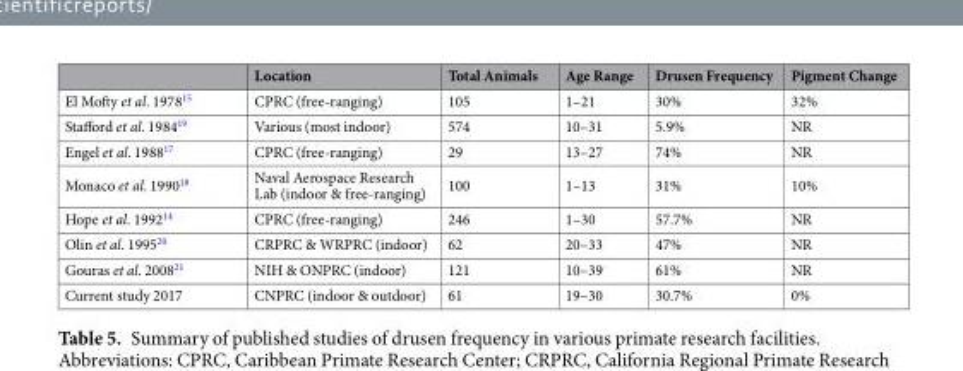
<table><thead><tr><td></td><td>Location</td><td>Total Animals</td><td>Age Range</td><td>Drusen Frequency</td><td>Pigment Change</td></tr></thead><tbody><tr><td>El Mofty et al. 1978<sup>15</sup></td><td>CPRC (free-ranging)</td><td>105</td><td>1–21</td><td>30%</td><td>32%</td></tr><tr><td>Stafford et al. 1984<sup>19</sup></td><td>Various (most indoor)</td><td>574</td><td>10–31</td><td>5.9%</td><td>NR</td></tr><tr><td>Engel et al. 1988<sup>17</sup></td><td>CPRC (free-ranging)</td><td>29</td><td>13–27</td><td>74%</td><td>NR</td></tr><tr><td>Monaco et al. 1990<sup>18</sup></td><td>Naval Aerospace Research Lab (indoor &amp; free-ranging)</td><td>100</td><td>1–13</td><td>31%</td><td>10%</td></tr><tr><td>Hope et al. 1992<sup>14</sup></td><td>CPRC (free-ranging)</td><td>246</td><td>1–30</td><td>57.7%</td><td>NR</td></tr><tr><td>Olin et al. 1995<sup>20</sup></td><td>CRPRC &amp; WRPRC (indoor)</td><td>62</td><td>20–33</td><td>47%</td><td>NR</td></tr><tr><td>Gouras et al. 2008<sup>21</sup></td><td>NIH &amp; ONPRC (indoor)</td><td>121</td><td>10–39</td><td>61%</td><td>NR</td></tr><tr><td>Current study 2017</td><td>CNPRC (indoor &amp; outdoor)</td><td>61</td><td>19–30</td><td>30.7%</td><td>0%</td></tr></tbody></table>